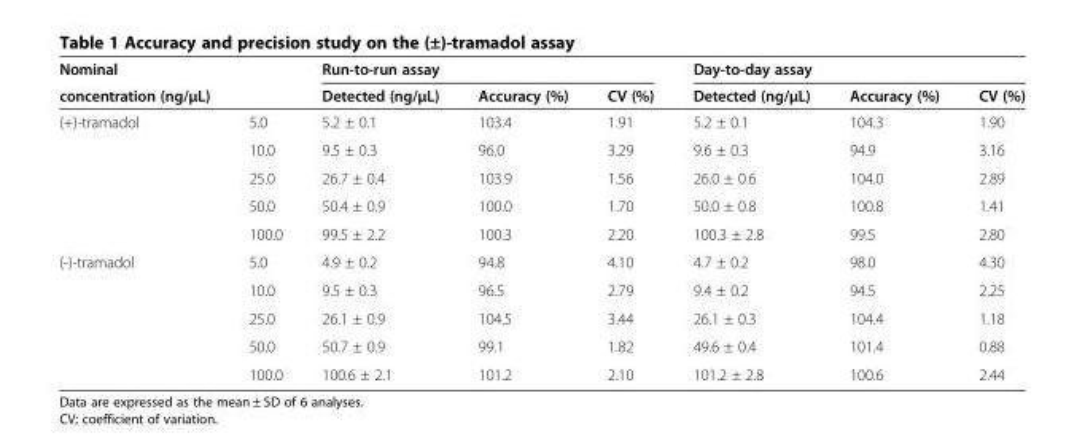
<table><thead><tr><td rowspan="2">Nominal concentration (ng/μL)</td><td rowspan="2"></td><td colspan="3">Run-to-run assay</td><td colspan="3">Day-to-day assay</td></tr><tr><td>Detected (ng/μL)</td><td>Accuracy (%)</td><td>CV (%)</td><td>Detected (ng/μL)</td><td>Accuracy (%)</td><td>CV (%)</td></tr></thead><tbody><tr><td rowspan="5">(+)-tramadol</td><td>5.0</td><td>5.2 ± 0.1</td><td>103.4</td><td>1.91</td><td>5.2 ± 0.1</td><td>104.3</td><td>1.90</td></tr><tr><td>10.0</td><td>9.5 ± 0.3</td><td>96.0</td><td>3.29</td><td>9.6 ± 0.3</td><td>94.9</td><td>3.16</td></tr><tr><td>25.0</td><td>26.7 ± 0.4</td><td>103.9</td><td>1.56</td><td>26.0 ± 0.6</td><td>104.0</td><td>2.89</td></tr><tr><td>50.0</td><td>50.4 ± 0.9</td><td>100.0</td><td>1.70</td><td>50.0 ± 0.8</td><td>100.8</td><td>1.41</td></tr><tr><td>100.0</td><td>99.5 ± 2.2</td><td>100.3</td><td>2.20</td><td>100.3 ± 2.8</td><td>99.5</td><td>2.80</td></tr><tr><td rowspan="5">(-)-tramadol</td><td>5.0</td><td>4.9 ± 0.2</td><td>94.8</td><td>4.10</td><td>4.7 ± 0.2</td><td>98.0</td><td>4.30</td></tr><tr><td>10.0</td><td>9.5 ± 0.3</td><td>96.5</td><td>2.79</td><td>9.4 ± 0.2</td><td>94.5</td><td>2.25</td></tr><tr><td>25.0</td><td>26.1 ± 0.9</td><td>104.5</td><td>3.44</td><td>26.1 ± 0.3</td><td>104.4</td><td>1.18</td></tr><tr><td>50.0</td><td>50.7 ± 0.9</td><td>99.1</td><td>1.82</td><td>49.6 ± 0.4</td><td>101.4</td><td>0.88</td></tr><tr><td>100.0</td><td>100.6 ± 2.1</td><td>101.2</td><td>2.10</td><td>101.2 ± 2.8</td><td>100.6</td><td>2.44</td></tr></tbody></table>